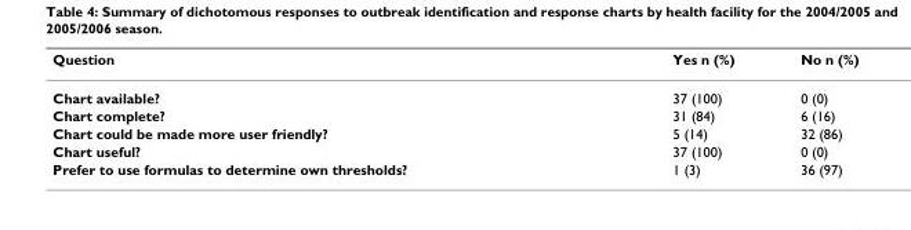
<table><thead><tr><td>Question</td><td>Yes n (%)</td><td>No n (%)</td></tr></thead><tbody><tr><td>Chart available?</td><td>37 (100)</td><td>0 (0)</td></tr><tr><td>Chart complete?</td><td>31 (84)</td><td>6 (16)</td></tr><tr><td>Chart could be made more user friendly?</td><td>5 (14)</td><td>32 (86)</td></tr><tr><td>Chart useful?</td><td>37 (100)</td><td>0 (0)</td></tr><tr><td>Prefer to use formulas to determine own thresholds?</td><td>1 (3)</td><td>36 (97)</td></tr></tbody></table>